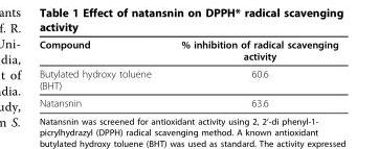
<table><thead><tr><td>Compound</td><td>% inhibition of radical scavenging activity</td></tr></thead><tbody><tr><td>Butylated hydroxy toluene (BHT)</td><td>60.6</td></tr><tr><td>Natansnin</td><td>63.6</td></tr></tbody></table>